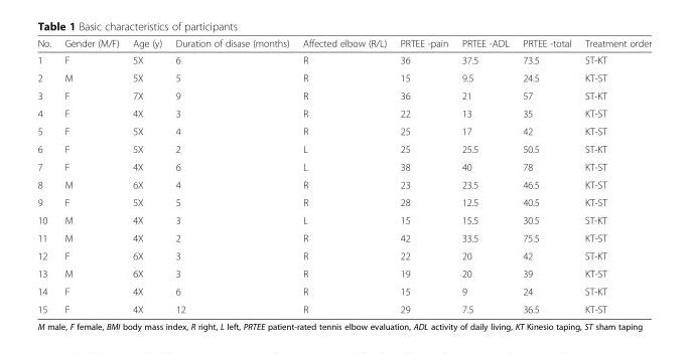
<table><thead><tr><td>No.</td><td>Gender (M/F)</td><td>Age (y)</td><td>Duration of disase (months)</td><td>Affected elbow (R/L)</td><td>PRTEE -pain</td><td>PRTEE -ADL</td><td>PRTEE -total</td><td>Treatment order</td></tr></thead><tbody><tr><td>1</td><td>F</td><td>5X</td><td>6</td><td>R</td><td>36</td><td>37.5</td><td>73.5</td><td>ST-KT</td></tr><tr><td>2</td><td>M</td><td>5X</td><td>5</td><td>R</td><td>15</td><td>9.5</td><td>24.5</td><td>KT-ST</td></tr><tr><td>3</td><td>F</td><td>7X</td><td>9</td><td>R</td><td>36</td><td>21</td><td>57</td><td>ST-KT</td></tr><tr><td>4</td><td>F</td><td>4X</td><td>3</td><td>R</td><td>22</td><td>13</td><td>35</td><td>KT-ST</td></tr><tr><td>5</td><td>F</td><td>5X</td><td>4</td><td>R</td><td>25</td><td>17</td><td>42</td><td>KT-ST</td></tr><tr><td>6</td><td>F</td><td>5X</td><td>2</td><td>L</td><td>25</td><td>25.5</td><td>50.5</td><td>ST-KT</td></tr><tr><td>7</td><td>F</td><td>4X</td><td>6</td><td>L</td><td>38</td><td>40</td><td>78</td><td>KT-ST</td></tr><tr><td>8</td><td>M</td><td>6X</td><td>4</td><td>R</td><td>23</td><td>23.5</td><td>46.5</td><td>KT-ST</td></tr><tr><td>9</td><td>F</td><td>5X</td><td>5</td><td>R</td><td>28</td><td>12.5</td><td>40.5</td><td>KT-ST</td></tr><tr><td>10</td><td>M</td><td>4X</td><td>3</td><td>L</td><td>15</td><td>15.5</td><td>30.5</td><td>ST-KT</td></tr><tr><td>11</td><td>M</td><td>4X</td><td>2</td><td>R</td><td>42</td><td>33.5</td><td>75.5</td><td>KT-ST</td></tr><tr><td>12</td><td>F</td><td>6X</td><td>3</td><td>R</td><td>22</td><td>20</td><td>42</td><td>ST-KT</td></tr><tr><td>13</td><td>M</td><td>6X</td><td>3</td><td>R</td><td>19</td><td>20</td><td>39</td><td>KT-ST</td></tr><tr><td>14</td><td>F</td><td>4X</td><td>6</td><td>R</td><td>15</td><td>9</td><td>24</td><td>ST-KT</td></tr><tr><td>15</td><td>F</td><td>4X</td><td>12</td><td>R</td><td>29</td><td>7.5</td><td>36.5</td><td>KT-ST</td></tr></tbody></table>